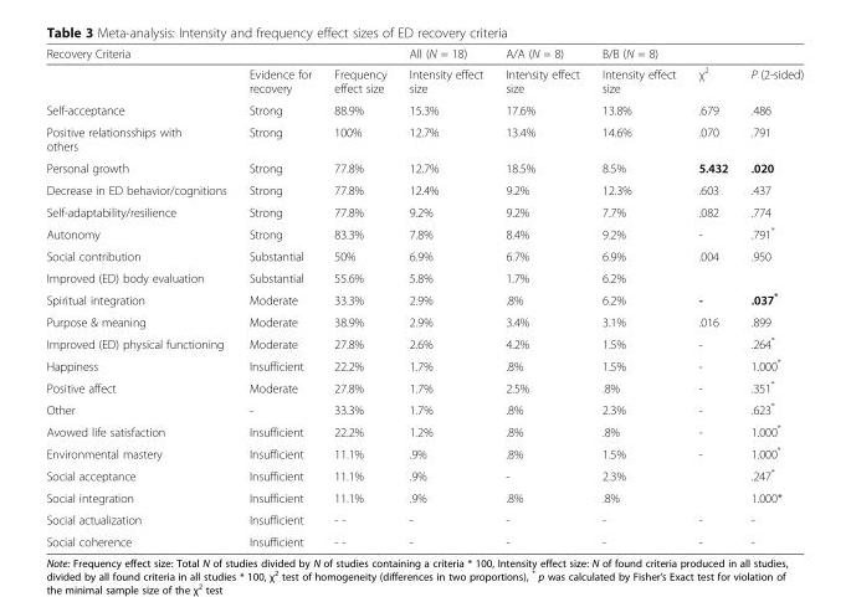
<table><thead><tr><td>Recovery Criteria</td><td></td><td></td><td>All (N = 18)</td><td>A/A (N = 8)</td><td>B/B (N = 8)</td><td></td><td></td></tr></thead><tbody><tr><td></td><td>Evidence for recovery</td><td>Frequency effect size</td><td>Intensity effect size</td><td>Intensity effect size</td><td>Intensity effect size</td><td>χ<sup>2</sup></td><td>P (2-sided)</td></tr><tr><td>Self-acceptance</td><td>Strong</td><td>88.9%</td><td>15.3%</td><td>17.6%</td><td>13.8%</td><td>.679</td><td>.486</td></tr><tr><td>Positive relationsships with others</td><td>Strong</td><td>100%</td><td>12.7%</td><td>13.4%</td><td>14.6%</td><td>.070</td><td>.791</td></tr><tr><td>Personal growth</td><td>Strong</td><td>77.8%</td><td>12.7%</td><td>18.5%</td><td>8.5%</td><td>5.432</td><td>.020</td></tr><tr><td>Decrease in ED behavior/cognitions</td><td>Strong</td><td>77.8%</td><td>12.4%</td><td>9.2%</td><td>12.3%</td><td>.603</td><td>.437</td></tr><tr><td>Self-adaptability/resilience</td><td>Strong</td><td>77.8%</td><td>9.2%</td><td>9.2%</td><td>7.7%</td><td>.082</td><td>.774</td></tr><tr><td>Autonomy</td><td>Strong</td><td>83.3%</td><td>7.8%</td><td>8.4%</td><td>9.2%</td><td>-</td><td>.791*</td></tr><tr><td>Social contribution</td><td>Substantial</td><td>50%</td><td>6.9%</td><td>6.7%</td><td>6.9%</td><td>.004</td><td>.950</td></tr><tr><td>Improved (ED) body evaluation</td><td>Substantial</td><td>55.6%</td><td>5.8%</td><td>1.7%</td><td>6.2%</td><td></td><td></td></tr><tr><td>Spiritual integration</td><td>Moderate</td><td>33.3%</td><td>2.9%</td><td>.8%</td><td>6.2%</td><td>-</td><td>.037*</td></tr><tr><td>Purpose &amp; meaning</td><td>Moderate</td><td>38.9%</td><td>2.9%</td><td>3.4%</td><td>3.1%</td><td>.016</td><td>.899</td></tr><tr><td>Improved (ED) physical functioning</td><td>Moderate</td><td>27.8%</td><td>2.6%</td><td>4.2%</td><td>1.5%</td><td>-</td><td>.264*</td></tr><tr><td>Happiness</td><td>Insufficient</td><td>22.2%</td><td>1.7%</td><td>.8%</td><td>1.5%</td><td>-</td><td>1.000*</td></tr><tr><td>Positive affect</td><td>Moderate</td><td>27.8%</td><td>1.7%</td><td>2.5%</td><td>.8%</td><td>-</td><td>.351*</td></tr><tr><td>Other</td><td>-</td><td>33.3%</td><td>1.7%</td><td>.8%</td><td>2.3%</td><td>-</td><td>.623*</td></tr><tr><td>Avowed life satisfaction</td><td>Insufficient</td><td>22.2%</td><td>1.2%</td><td>.8%</td><td>.8%</td><td>-</td><td>1.000*</td></tr><tr><td>Environmental mastery</td><td>Insufficient</td><td>11.1%</td><td>.9%</td><td>.8%</td><td>1.5%</td><td>-</td><td>1.000*</td></tr><tr><td>Social acceptance</td><td>Insufficient</td><td>11.1%</td><td>.9%</td><td>-</td><td>2.3%</td><td></td><td>.247*</td></tr><tr><td>Social integration</td><td>Insufficient</td><td>11.1%</td><td>.9%</td><td>.8%</td><td>.8%</td><td></td><td>1.000*</td></tr><tr><td>Social actualization</td><td>Insufficient</td><td>- -</td><td>-</td><td>-</td><td>-</td><td>-</td><td>-</td></tr><tr><td>Social coherence</td><td>Insufficient</td><td>- -</td><td>-</td><td>-</td><td>-</td><td>-</td><td>-</td></tr></tbody></table>